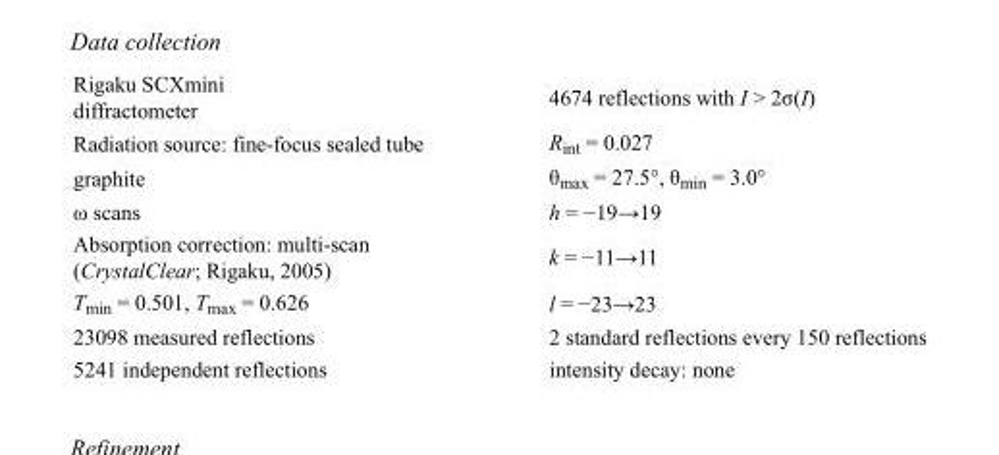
<table><tbody><tr><td>Rigaku SCXmini diffractometer</td><td>4674 reflections with I &gt; 2σ(I)</td></tr><tr><td>Radiation source: fine-focus sealed tube</td><td>R<sub>int</sub> = 0.027</td></tr><tr><td>graphite</td><td>θ<sub>max</sub> = 27.5°, θ<sub>min</sub> = 3.0°</td></tr><tr><td>ω scans</td><td>h = −19→19</td></tr><tr><td>Absorption correction: multi-scan (CrystalClear; Rigaku, 2005)</td><td>k = −11→11</td></tr><tr><td>T<sub>min</sub> = 0.501, T<sub>max</sub> = 0.626</td><td>l = −23→23</td></tr><tr><td>23098 measured reflections</td><td>2 standard reflections every 150 reflections</td></tr><tr><td>5241 independent reflections</td><td>intensity decay: none</td></tr></tbody></table>